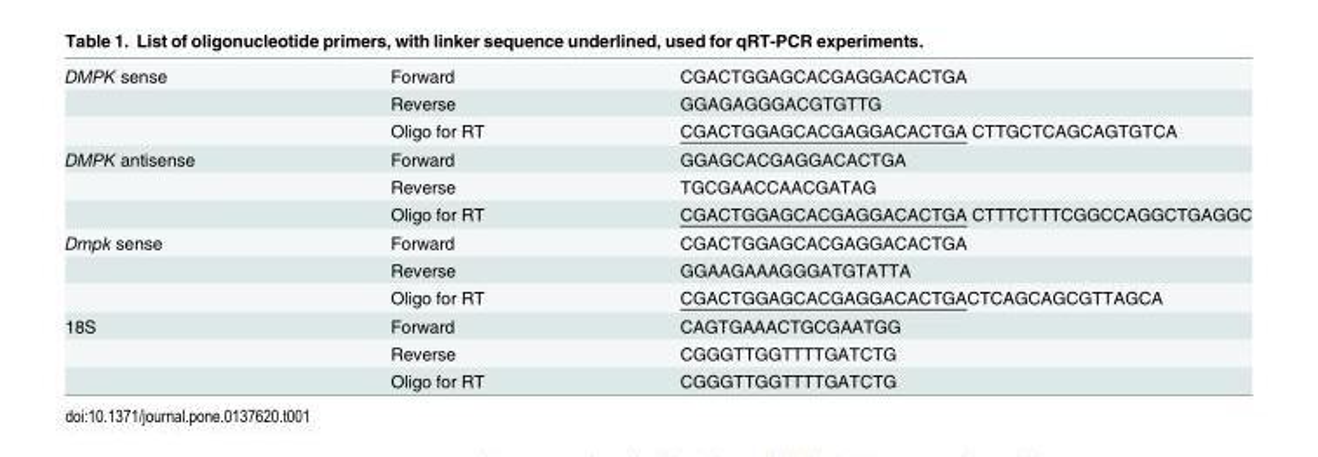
<table><tbody><tr><td rowspan="3">DMPK sense</td><td>Forward</td><td>CGACTGGAGCACGAGGACACTGA</td></tr><tr><td>Reverse</td><td>GGAGAGGGACGTGTTG</td></tr><tr><td>Oligo for RT</td><td>CGACTGGAGCACGAGGACACTGA CTTGCTCAGCAGTGTCA</td></tr><tr><td rowspan="3">DMPK antisense</td><td>Forward</td><td>GGAGCACGAGGACACTGA</td></tr><tr><td>Reverse</td><td>TGCGAACCAACGATAG</td></tr><tr><td>Oligo for RT</td><td>CGACTGGAGCACGAGGACACTGA CTTTCTTTCGGCCAGGCTGAGGC</td></tr><tr><td rowspan="3">Dmpk sense</td><td>Forward</td><td>CGACTGGAGCACGAGGACACTGA</td></tr><tr><td>Reverse</td><td>GGAAGAAAGGGATGTATTA</td></tr><tr><td>Oligo for RT</td><td>CGACTGGAGCACGAGGACACTGACTCAGCAGCGTTAGCA</td></tr><tr><td rowspan="3">18S</td><td>Forward</td><td>CAGTGAAACTGCGAATGG</td></tr><tr><td>Reverse</td><td>CGGGTTGGTTTTGATCTG</td></tr><tr><td>Oligo for RT</td><td>CGGGTTGGTTTTGATCTG</td></tr></tbody></table>